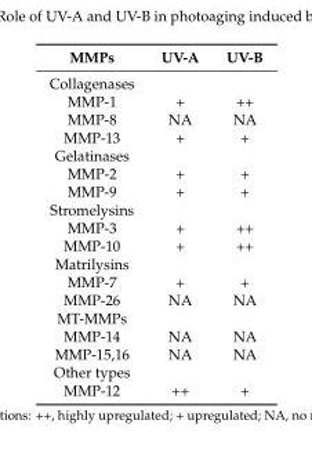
<table><thead><tr><td>MMPs</td><td>UV-A</td><td>UV-B</td></tr></thead><tbody><tr><td colspan="3">Collagenases</td></tr><tr><td>MMP-1</td><td>+</td><td>++</td></tr><tr><td>MMP-8</td><td>NA</td><td>NA</td></tr><tr><td>MMP-13</td><td>+</td><td>+</td></tr><tr><td colspan="3">Gelatinases</td></tr><tr><td>MMP-2</td><td>+</td><td>+</td></tr><tr><td>MMP-9</td><td>+</td><td>+</td></tr><tr><td colspan="3">Stromelysins</td></tr><tr><td>MMP-3</td><td>+</td><td>++</td></tr><tr><td>MMP-10</td><td>+</td><td>++</td></tr><tr><td colspan="3">Matrilysins</td></tr><tr><td>MMP-7</td><td>+</td><td>+</td></tr><tr><td>MMP-26</td><td>NA</td><td>NA</td></tr><tr><td colspan="3">MT-MMPs</td></tr><tr><td>MMP-14</td><td>NA</td><td>NA</td></tr><tr><td>MMP-15,16</td><td>NA</td><td>NA</td></tr><tr><td colspan="3">Other types</td></tr><tr><td>MMP-12</td><td>++</td><td>+</td></tr></tbody></table>